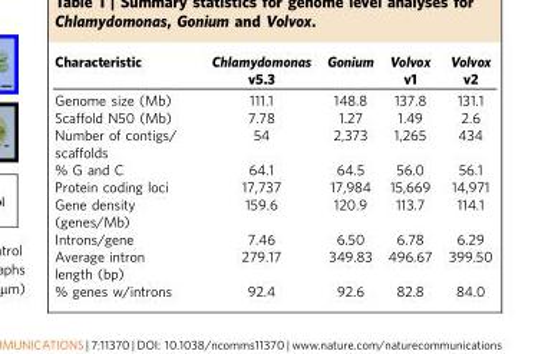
<table><thead><tr><td>Characteristic</td><td>Chlamydomonas v5.3</td><td>Gonium</td><td>Volvox v1</td><td>Volvox v2</td></tr></thead><tbody><tr><td>Genome size (Mb)</td><td>111.1</td><td>148.8</td><td>137.8</td><td>131.1</td></tr><tr><td>Scaffold N50 (Mb)</td><td>7.78</td><td>1.27</td><td>1.49</td><td>2.6</td></tr><tr><td>Number of contigs/ scaffolds</td><td>54</td><td>2,373</td><td>1,265</td><td>434</td></tr><tr><td>% G and C</td><td>64.1</td><td>64.5</td><td>56.0</td><td>56.1</td></tr><tr><td>Protein coding loci</td><td>17,737</td><td>17,984</td><td>15,669</td><td>14,971</td></tr><tr><td>Gene density (genes/Mb)</td><td>159.6</td><td>120.9</td><td>113.7</td><td>114.1</td></tr><tr><td>Introns/gene</td><td>7.46</td><td>6.50</td><td>6.78</td><td>6.29</td></tr><tr><td>Average intron length (bp)</td><td>279.17</td><td>349.83</td><td>496.67</td><td>399.50</td></tr><tr><td>% genes w/introns</td><td>92.4</td><td>92.6</td><td>82.8</td><td>84.0</td></tr></tbody></table>